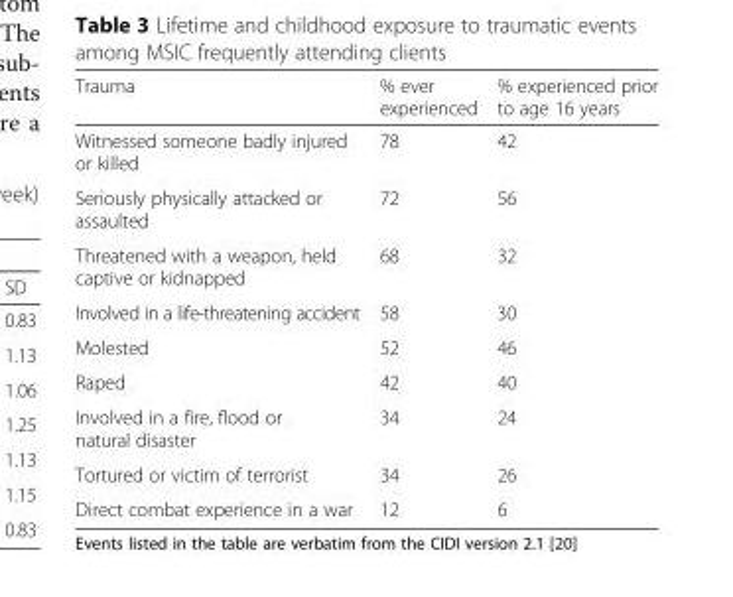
<table><thead><tr><td>Trauma</td><td>% ever experienced</td><td>% experienced prior to age 16 years</td></tr></thead><tbody><tr><td>Witnessed someone badly injured or killed</td><td>78</td><td>42</td></tr><tr><td>Seriously physically attacked or assaulted</td><td>72</td><td>56</td></tr><tr><td>Threatened with a weapon, held captive or kidnapped</td><td>68</td><td>32</td></tr><tr><td>Involved in a life-threatening accident</td><td>58</td><td>30</td></tr><tr><td>Molested</td><td>52</td><td>46</td></tr><tr><td>Raped</td><td>42</td><td>40</td></tr><tr><td>Involved in a fire, flood or natural disaster</td><td>34</td><td>24</td></tr><tr><td>Tortured or victim of terrorist</td><td>34</td><td>26</td></tr><tr><td>Direct combat experience in a war</td><td>12</td><td>6</td></tr></tbody></table>